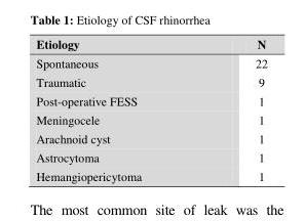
<table><thead><tr><td>Etiology</td><td>N</td></tr></thead><tbody><tr><td>Spontaneous</td><td>22</td></tr><tr><td>Traumatic</td><td>9</td></tr><tr><td>Post-operative FESS</td><td>1</td></tr><tr><td>Meningocele</td><td>1</td></tr><tr><td>Arachnoid cyst</td><td>1</td></tr><tr><td>Astrocytoma</td><td>1</td></tr><tr><td>Hemangiopericytoma</td><td>1</td></tr></tbody></table>